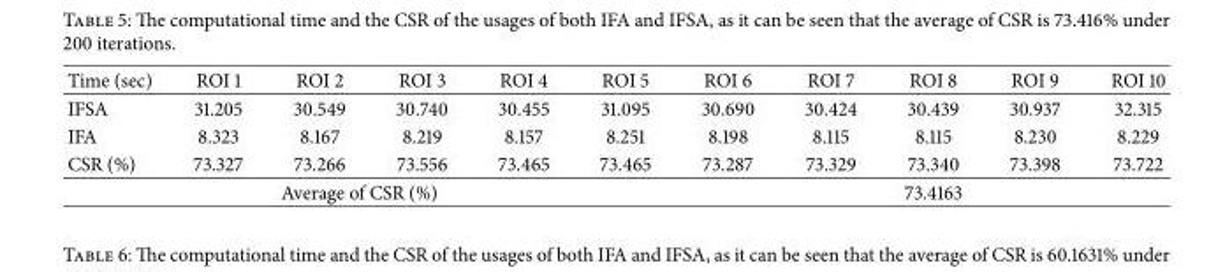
<table><thead><tr><td>Time (sec)</td><td>ROI 1</td><td>ROI 2</td><td>ROI 3</td><td>ROI 4</td><td>ROI 5</td><td>ROI 6</td><td>ROI 7</td><td>ROI 8</td><td>ROI 9</td><td>ROI 10</td></tr></thead><tbody><tr><td>IFSA</td><td>31.205</td><td>30.549</td><td>30.740</td><td>30.455</td><td>31.095</td><td>30.690</td><td>30.424</td><td>30.439</td><td>30.937</td><td>32.315</td></tr><tr><td>IFA</td><td>8.323</td><td>8.167</td><td>8.219</td><td>8.157</td><td>8.251</td><td>8.198</td><td>8.115</td><td>8.115</td><td>8.230</td><td>8.229</td></tr><tr><td>CSR (%)</td><td>73.327</td><td>73.266</td><td>73.556</td><td>73.465</td><td>73.465</td><td>73.287</td><td>73.329</td><td>73.340</td><td>73.398</td><td>73.722</td></tr><tr><td colspan="6">Average of CSR (%)</td><td colspan="5">73.4163</td></tr></tbody></table>